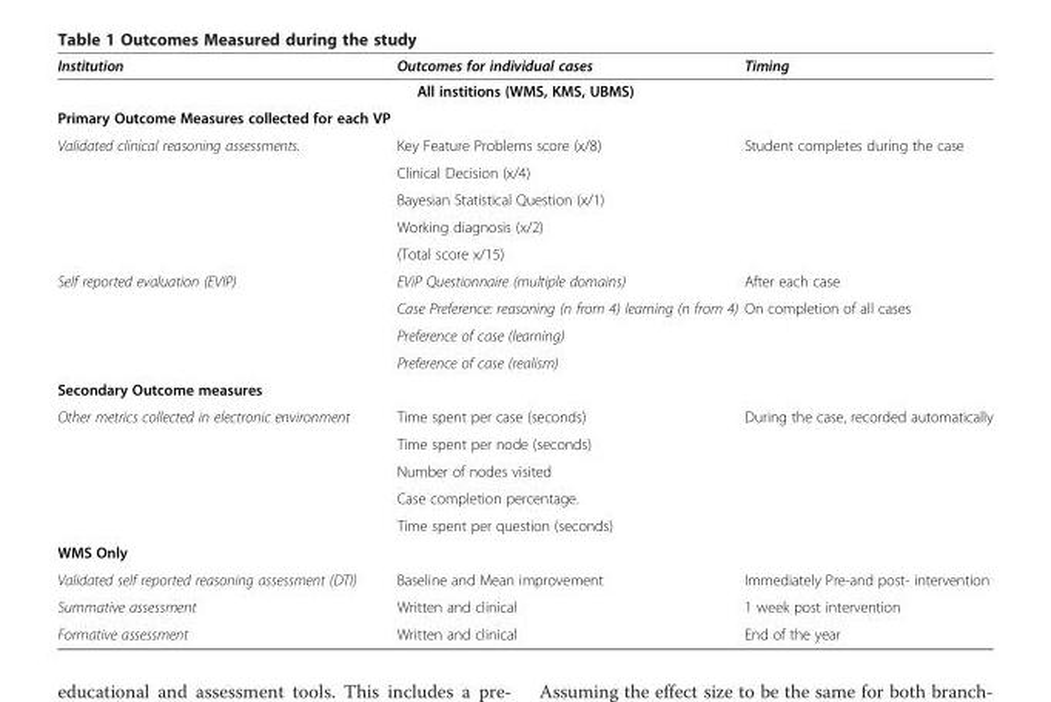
<table><thead><tr><td>Institution</td><td>Outcomes for individual cases</td><td>Timing</td></tr></thead><tbody><tr><td colspan="3">All institions (WMS, KMS, UBMS)</td></tr><tr><td colspan="3">Primary Outcome Measures collected for each VP</td></tr><tr><td rowspan="5">Validated clinical reasoning assessments.</td><td>Key Feature Problems score (x/8)</td><td>Student completes during the case</td></tr><tr><td>Clinical Decision (x/4)</td><td></td></tr><tr><td>Bayesian Statistical Question (x/1)</td><td></td></tr><tr><td>Working diagnosis (x/2)</td><td></td></tr><tr><td>(Total score x/15)</td><td></td></tr><tr><td rowspan="4">Self reported evaluation (EVIP)</td><td>EViP Questionnaire (multiple domains)</td><td>After each case</td></tr><tr><td>Case Preference: reasoning (n from 4) learning (n from 4)</td><td>On completion of all cases</td></tr><tr><td>Preference of case (learning)</td><td></td></tr><tr><td>Preference of case (realism)</td><td></td></tr><tr><td colspan="3">Secondary Outcome measures</td></tr><tr><td rowspan="5">Other metrics collected in electronic environment</td><td>Time spent per case (seconds)</td><td>During the case, recorded automatically</td></tr><tr><td>Time spent per node (seconds)</td><td></td></tr><tr><td>Number of nodes visited</td><td></td></tr><tr><td>Case completion percentage.</td><td></td></tr><tr><td>Time spent per question (seconds)</td><td></td></tr><tr><td colspan="3">WMS Only</td></tr><tr><td>Validated self reported reasoning assessment (DTI)</td><td>Baseline and Mean improvement</td><td>Immediately Pre-and post- intervention</td></tr><tr><td>Summative assessment</td><td>Written and clinical</td><td>1 week post intervention</td></tr><tr><td>Formative assessment</td><td>Written and clinical</td><td>End of the year</td></tr></tbody></table>